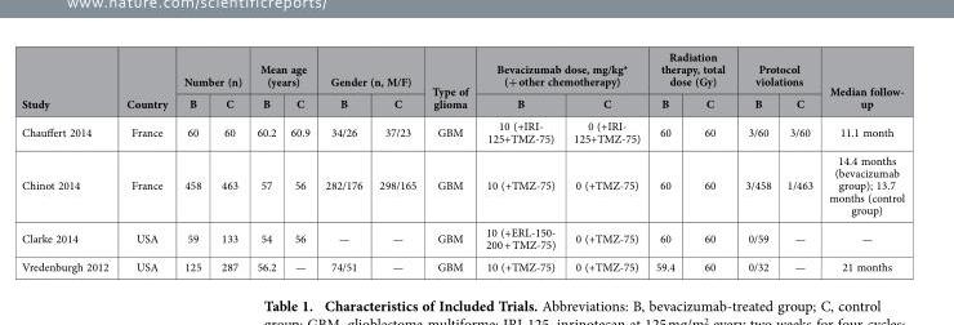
<table><thead><tr><td rowspan="2">Study</td><td rowspan="2">Country</td><td colspan="2">Number (n)</td><td colspan="2">Mean age (years)</td><td colspan="2">Gender (n, M/F)</td><td rowspan="2">Type of glioma</td><td colspan="2">Bevacizumab dose, mg/kg* (+ other chemotherapy)</td><td colspan="2">Radiation therapy, total dose (Gy)</td><td colspan="2">Protocol violations</td><td rowspan="2">Median follow- up</td></tr><tr><td>B</td><td>C</td><td>B</td><td>C</td><td>B</td><td>C</td><td>B</td><td>C</td><td>B</td><td>C</td><td>B</td><td>C</td></tr></thead><tbody><tr><td>Chauffert 2014</td><td>France</td><td>60</td><td>60</td><td>60.2</td><td>60.9</td><td>34/26</td><td>37/23</td><td>GBM</td><td>10 (+IRI- 125+TMZ-75)</td><td>0 (+IRI- 125+TMZ-75)</td><td>60</td><td>60</td><td>3/60</td><td>3/60</td><td>11.1 month</td></tr><tr><td>Chinot 2014</td><td>France</td><td>458</td><td>463</td><td>57</td><td>56</td><td>282/176</td><td>298/165</td><td>GBM</td><td>10 (+TMZ-75)</td><td>0 (+TMZ-75)</td><td>60</td><td>60</td><td>3/458</td><td>1/463</td><td>14.4 months (bevacizumab group); 13.7 months (control group)</td></tr><tr><td>Clarke 2014</td><td>USA</td><td>59</td><td>133</td><td>54</td><td>56</td><td>—</td><td>—</td><td>GBM</td><td>10 (+ERL-150- 200 + TMZ-75)</td><td>0 (+TMZ-75)</td><td>60</td><td>60</td><td>0/59</td><td>—</td><td>—</td></tr><tr><td>Vredenburgh 2012</td><td>USA</td><td>125</td><td>287</td><td>56.2</td><td>—</td><td>74/51</td><td>—</td><td>GBM</td><td>10 (+TMZ-75)</td><td>0 (+TMZ-75)</td><td>59.4</td><td>60</td><td>0/32</td><td>—</td><td>21 months</td></tr></tbody></table>